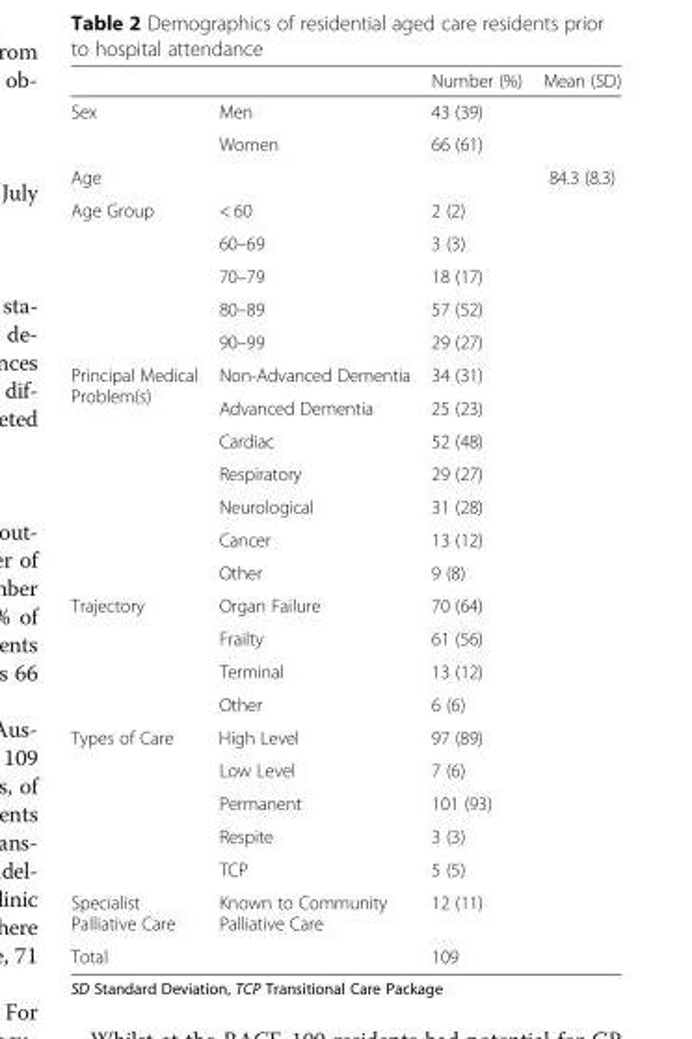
<table><thead><tr><td></td><td></td><td>Number (%)</td><td>Mean (SD)</td></tr></thead><tbody><tr><td rowspan="2">Sex</td><td>Men</td><td>43 (39)</td><td rowspan="2"></td></tr><tr><td>Women</td><td>66 (61)</td></tr><tr><td>Age</td><td colspan="2"></td><td>84.3 (8.3)</td></tr><tr><td rowspan="5">Age Group</td><td>&lt; 60</td><td>2 (2)</td><td rowspan="5"></td></tr><tr><td>60–69</td><td>3 (3)</td></tr><tr><td>70–79</td><td>18 (17)</td></tr><tr><td>80–89</td><td>57 (52)</td></tr><tr><td>90–99</td><td>29 (27)</td></tr><tr><td rowspan="7">Principal Medical Problem(s)</td><td>Non-Advanced Dementia</td><td>34 (31)</td><td rowspan="7"></td></tr><tr><td>Advanced Dementia</td><td>25 (23)</td></tr><tr><td>Cardiac</td><td>52 (48)</td></tr><tr><td>Respiratory</td><td>29 (27)</td></tr><tr><td>Neurological</td><td>31 (28)</td></tr><tr><td>Cancer</td><td>13 (12)</td></tr><tr><td>Other</td><td>9 (8)</td></tr><tr><td rowspan="4">Trajectory</td><td>Organ Failure</td><td>70 (64)</td><td rowspan="4"></td></tr><tr><td>Frailty</td><td>61 (56)</td></tr><tr><td>Terminal</td><td>13 (12)</td></tr><tr><td>Other</td><td>6 (6)</td></tr><tr><td rowspan="5">Types of Care</td><td>High Level</td><td>97 (89)</td><td rowspan="5"></td></tr><tr><td>Low Level</td><td>7 (6)</td></tr><tr><td>Permanent</td><td>101 (93)</td></tr><tr><td>Respite</td><td>3 (3)</td></tr><tr><td>TCP</td><td>5 (5)</td></tr><tr><td>Specialist Palliative Care</td><td>Known to Community Palliative Care</td><td>12 (11)</td><td></td></tr><tr><td colspan="2">Total</td><td colspan="2">109</td></tr></tbody></table>